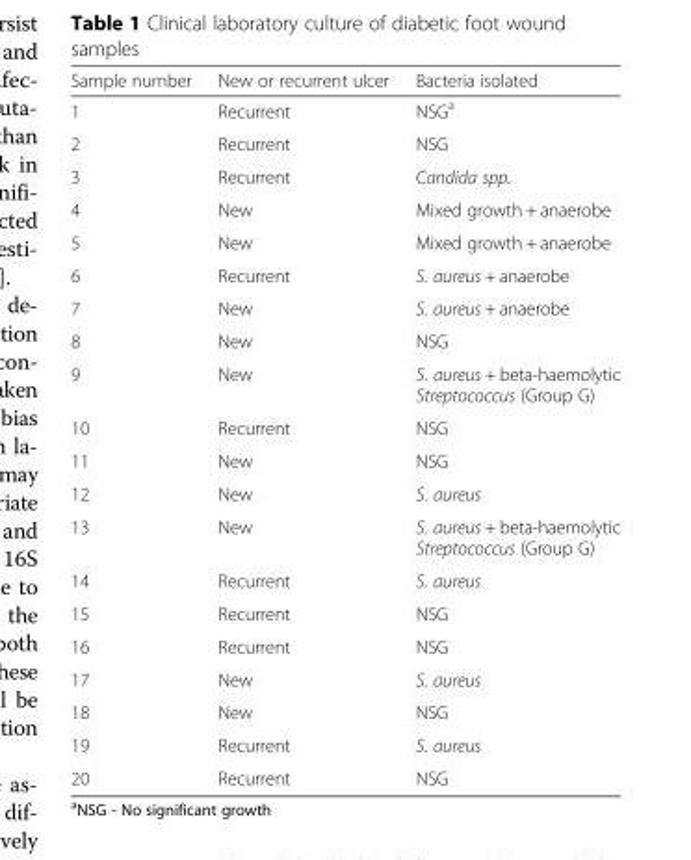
<table><thead><tr><td>Sample number</td><td>New or recurrent ulcer</td><td>Bacteria isolated</td></tr></thead><tbody><tr><td>1</td><td>Recurrent</td><td>NSG<sup>a</sup></td></tr><tr><td>2</td><td>Recurrent</td><td>NSG</td></tr><tr><td>3</td><td>Recurrent</td><td>Candida spp.</td></tr><tr><td>4</td><td>New</td><td>Mixed growth + anaerobe</td></tr><tr><td>5</td><td>New</td><td>Mixed growth + anaerobe</td></tr><tr><td>6</td><td>Recurrent</td><td>S. aureus + anaerobe</td></tr><tr><td>7</td><td>New</td><td>S. aureus + anaerobe</td></tr><tr><td>8</td><td>New</td><td>NSG</td></tr><tr><td>9</td><td>New</td><td>S. aureus + beta-haemolytic Streptococcus (Group G)</td></tr><tr><td>10</td><td>Recurrent</td><td>NSG</td></tr><tr><td>11</td><td>New</td><td>NSG</td></tr><tr><td>12</td><td>New</td><td>S. aureus</td></tr><tr><td>13</td><td>New</td><td>S. aureus + beta-haemolytic Streptococcus (Group G)</td></tr><tr><td>14</td><td>Recurrent</td><td>S. aureus</td></tr><tr><td>15</td><td>Recurrent</td><td>NSG</td></tr><tr><td>16</td><td>Recurrent</td><td>NSG</td></tr><tr><td>17</td><td>New</td><td>S. aureus</td></tr><tr><td>18</td><td>New</td><td>NSG</td></tr><tr><td>19</td><td>Recurrent</td><td>S. aureus</td></tr><tr><td>20</td><td>Recurrent</td><td>NSG</td></tr></tbody></table>